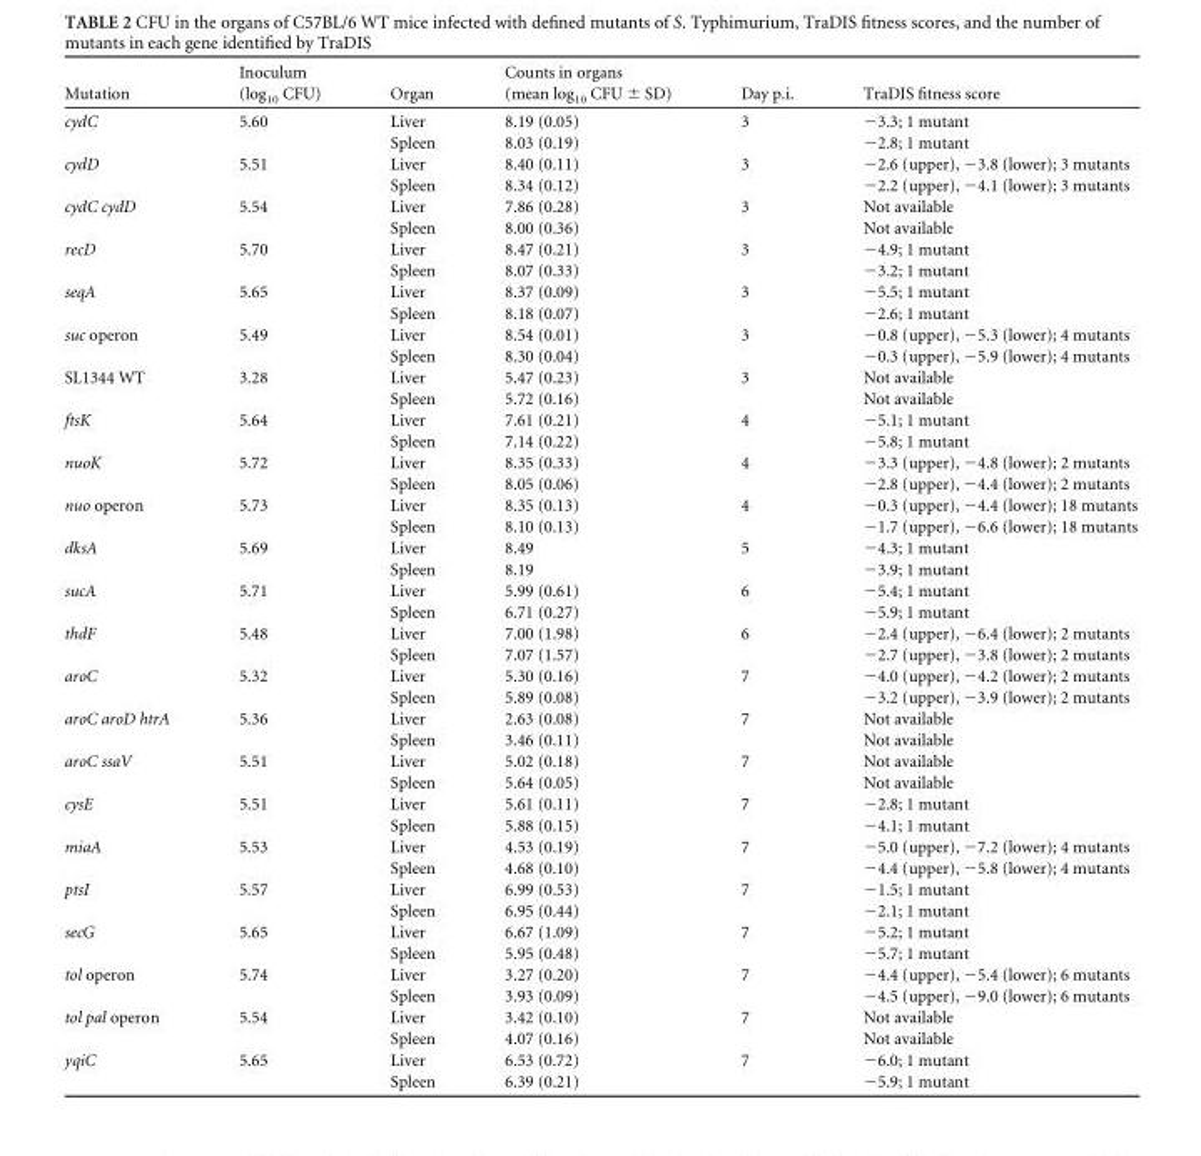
<table><thead><tr><td>Mutation</td><td>Inoculum (log<sub>10</sub> CFU)</td><td>Organ</td><td>Counts in organs (mean log<sub>10</sub> CFU ± SD)</td><td>Day p.i.</td><td>TraDIS fitness score</td></tr></thead><tbody><tr><td rowspan="2">cydC</td><td>5.60</td><td>Liver</td><td>8.19 (0.05)</td><td>3</td><td>−3.3; 1 mutant</td></tr><tr><td></td><td>Spleen</td><td>8.03 (0.19)</td><td></td><td>−2.8; 1 mutant</td></tr><tr><td rowspan="2">cydD</td><td>5.51</td><td>Liver</td><td>8.40 (0.11)</td><td>3</td><td>−2.6 (upper), −3.8 (lower); 3 mutants</td></tr><tr><td></td><td>Spleen</td><td>8.34 (0.12)</td><td></td><td>−2.2 (upper), −4.1 (lower); 3 mutants</td></tr><tr><td rowspan="2">cydC cydD</td><td>5.54</td><td>Liver</td><td>7.86 (0.28)</td><td>3</td><td>Not available</td></tr><tr><td></td><td>Spleen</td><td>8.00 (0.36)</td><td></td><td>Not available</td></tr><tr><td rowspan="2">recD</td><td>5.70</td><td>Liver</td><td>8.47 (0.21)</td><td>3</td><td>−4.9; 1 mutant</td></tr><tr><td></td><td>Spleen</td><td>8.07 (0.33)</td><td></td><td>−3.2; 1 mutant</td></tr><tr><td rowspan="2">seqA</td><td>5.65</td><td>Liver</td><td>8.37 (0.09)</td><td>3</td><td>−5.5; 1 mutant</td></tr><tr><td></td><td>Spleen</td><td>8.18 (0.07)</td><td></td><td>−2.6; 1 mutant</td></tr><tr><td rowspan="2">suc operon</td><td>5.49</td><td>Liver</td><td>8.54 (0.01)</td><td>3</td><td>−0.8 (upper), −5.3 (lower); 4 mutants</td></tr><tr><td></td><td>Spleen</td><td>8.30 (0.04)</td><td></td><td>−0.3 (upper), −5.9 (lower); 4 mutants</td></tr><tr><td rowspan="2">SL1344 WT</td><td>3.28</td><td>Liver</td><td>5.47 (0.23)</td><td>3</td><td>Not available</td></tr><tr><td></td><td>Spleen</td><td>5.72 (0.16)</td><td></td><td>Not available</td></tr><tr><td rowspan="2">ftsK</td><td>5.64</td><td>Liver</td><td>7.61 (0.21)</td><td>4</td><td>−5.1; 1 mutant</td></tr><tr><td></td><td>Spleen</td><td>7.14 (0.22)</td><td></td><td>−5.8; 1 mutant</td></tr><tr><td rowspan="2">nuoK</td><td>5.72</td><td>Liver</td><td>8.35 (0.33)</td><td>4</td><td>−3.3 (upper), −4.8 (lower); 2 mutants</td></tr><tr><td></td><td>Spleen</td><td>8.05 (0.06)</td><td></td><td>−2.8 (upper), −4.4 (lower); 2 mutants</td></tr><tr><td rowspan="2">nuo operon</td><td>5.73</td><td>Liver</td><td>8.35 (0.13)</td><td>4</td><td>−0.3 (upper), −4.4 (lower); 18 mutants</td></tr><tr><td></td><td>Spleen</td><td>8.10 (0.13)</td><td></td><td>−1.7 (upper), −6.6 (lower); 18 mutants</td></tr><tr><td rowspan="2">dksA</td><td>5.69</td><td>Liver</td><td>8.49</td><td>5</td><td>−4.3; 1 mutant</td></tr><tr><td></td><td>Spleen</td><td>8.19</td><td></td><td>−3.9; 1 mutant</td></tr><tr><td rowspan="2">sucA</td><td>5.71</td><td>Liver</td><td>5.99 (0.61)</td><td>6</td><td>−5.4; 1 mutant</td></tr><tr><td></td><td>Spleen</td><td>6.71 (0.27)</td><td></td><td>−5.9; 1 mutant</td></tr><tr><td rowspan="2">thdF</td><td>5.48</td><td>Liver</td><td>7.00 (1.98)</td><td>6</td><td>−2.4 (upper), −6.4 (lower); 2 mutants</td></tr><tr><td></td><td>Spleen</td><td>7.07 (1.57)</td><td></td><td>−2.7 (upper), −3.8 (lower); 2 mutants</td></tr><tr><td rowspan="2">aroC</td><td>5.32</td><td>Liver</td><td>5.30 (0.16)</td><td>7</td><td>−4.0 (upper), −4.2 (lower); 2 mutants</td></tr><tr><td></td><td>Spleen</td><td>5.89 (0.08)</td><td></td><td>−3.2 (upper), −3.9 (lower); 2 mutants</td></tr><tr><td rowspan="2">aroC aroD htrA</td><td>5.36</td><td>Liver</td><td>2.63 (0.08)</td><td>7</td><td>Not available</td></tr><tr><td></td><td>Spleen</td><td>3.46 (0.11)</td><td></td><td>Not available</td></tr><tr><td rowspan="2">aroC ssaV</td><td>5.51</td><td>Liver</td><td>5.02 (0.18)</td><td>7</td><td>Not available</td></tr><tr><td></td><td>Spleen</td><td>5.64 (0.05)</td><td></td><td>Not available</td></tr><tr><td rowspan="2">cysE</td><td>5.51</td><td>Liver</td><td>5.61 (0.11)</td><td>7</td><td>−2.8; 1 mutant</td></tr><tr><td></td><td>Spleen</td><td>5.88 (0.15)</td><td></td><td>−4.1; 1 mutant</td></tr><tr><td rowspan="2">miaA</td><td>5.53</td><td>Liver</td><td>4.53 (0.19)</td><td>7</td><td>−5.0 (upper), −7.2 (lower); 4 mutants</td></tr><tr><td></td><td>Spleen</td><td>4.68 (0.10)</td><td></td><td>−4.4 (upper), −5.8 (lower); 4 mutants</td></tr><tr><td rowspan="2">ptsI</td><td>5.57</td><td>Liver</td><td>6.99 (0.53)</td><td>7</td><td>−1.5; 1 mutant</td></tr><tr><td></td><td>Spleen</td><td>6.95 (0.44)</td><td></td><td>−2.1; 1 mutant</td></tr><tr><td rowspan="2">secG</td><td>5.65</td><td>Liver</td><td>6.67 (1.09)</td><td>7</td><td>−5.2; 1 mutant</td></tr><tr><td></td><td>Spleen</td><td>5.95 (0.48)</td><td></td><td>−5.7; 1 mutant</td></tr><tr><td rowspan="2">tol operon</td><td>5.74</td><td>Liver</td><td>3.27 (0.20)</td><td>7</td><td>−4.4 (upper), −5.4 (lower); 6 mutants</td></tr><tr><td></td><td>Spleen</td><td>3.93 (0.09)</td><td></td><td>−4.5 (upper), −9.0 (lower); 6 mutants</td></tr><tr><td rowspan="2">tol pal operon</td><td>5.54</td><td>Liver</td><td>3.42 (0.10)</td><td>7</td><td>Not available</td></tr><tr><td></td><td>Spleen</td><td>4.07 (0.16)</td><td></td><td>Not available</td></tr><tr><td rowspan="2">yqiC</td><td>5.65</td><td>Liver</td><td>6.53 (0.72)</td><td>7</td><td>−6.0; 1 mutant</td></tr><tr><td></td><td>Spleen</td><td>6.39 (0.21)</td><td></td><td>−5.9; 1 mutant</td></tr></tbody></table>